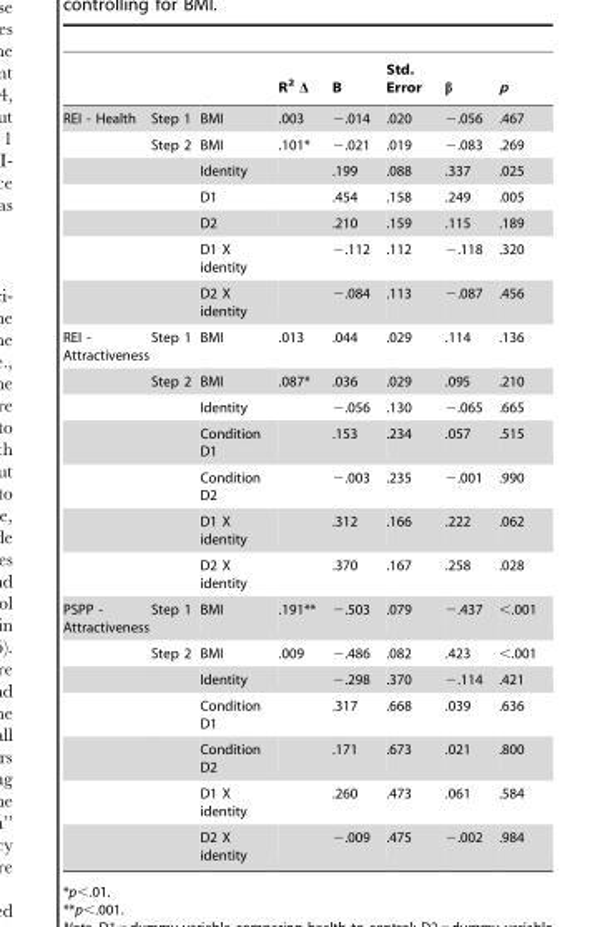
<table><thead><tr><td></td><td></td><td></td><td>R<sup>2</sup> Δ</td><td>B</td><td>Std. Error</td><td>β</td><td>p</td></tr></thead><tbody><tr><td rowspan="7">REI - Health</td><td>Step 1</td><td>BMI</td><td>.003</td><td>−.014</td><td>.020</td><td>−.056</td><td>.467</td></tr><tr><td>Step 2</td><td>BMI</td><td>.101*</td><td>−.021</td><td>.019</td><td>−.083</td><td>.269</td></tr><tr><td></td><td>Identity</td><td></td><td>.199</td><td>.088</td><td>.337</td><td>.025</td></tr><tr><td></td><td>D1</td><td></td><td>.454</td><td>.158</td><td>.249</td><td>.005</td></tr><tr><td></td><td>D2</td><td></td><td>.210</td><td>.159</td><td>.115</td><td>.189</td></tr><tr><td></td><td>D1 X identity</td><td></td><td>−.112</td><td>.112</td><td>−.118</td><td>.320</td></tr><tr><td></td><td>D2 X identity</td><td></td><td>−.084</td><td>.113</td><td>−.087</td><td>.456</td></tr><tr><td rowspan="7">REI - Attractiveness</td><td>Step 1</td><td>BMI</td><td>.013</td><td>.044</td><td>.029</td><td>.114</td><td>.136</td></tr><tr><td>Step 2</td><td>BMI</td><td>.087*</td><td>.036</td><td>.029</td><td>.095</td><td>.210</td></tr><tr><td></td><td>Identity</td><td></td><td>−.056</td><td>.130</td><td>−.065</td><td>.665</td></tr><tr><td></td><td>Condition D1</td><td></td><td>.153</td><td>.234</td><td>.057</td><td>.515</td></tr><tr><td></td><td>Condition D2</td><td></td><td>−.003</td><td>.235</td><td>−.001</td><td>.990</td></tr><tr><td></td><td>D1 X identity</td><td></td><td>.312</td><td>.166</td><td>.222</td><td>.062</td></tr><tr><td></td><td>D2 X identity</td><td></td><td>.370</td><td>.167</td><td>.258</td><td>.028</td></tr><tr><td rowspan="7">PSPP - Attractiveness</td><td>Step 1</td><td>BMI</td><td>.191**</td><td>−.503</td><td>.079</td><td>−.437</td><td>&lt;.001</td></tr><tr><td>Step 2</td><td>BMI</td><td>.009</td><td>−.486</td><td>.082</td><td>.423</td><td>&lt;.001</td></tr><tr><td></td><td>Identity</td><td></td><td>−.298</td><td>.370</td><td>−.114</td><td>.421</td></tr><tr><td></td><td>Condition D1</td><td></td><td>.317</td><td>.668</td><td>.039</td><td>.636</td></tr><tr><td></td><td>Condition D2</td><td></td><td>.171</td><td>.673</td><td>.021</td><td>.800</td></tr><tr><td></td><td>D1 X identity</td><td></td><td>.260</td><td>.473</td><td>.061</td><td>.584</td></tr><tr><td></td><td>D2 X identity</td><td></td><td>−.009</td><td>.475</td><td>−.002</td><td>.984</td></tr></tbody></table>